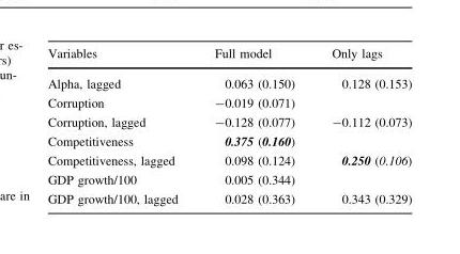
<table><thead><tr><td>Variables</td><td>Full model</td><td>Only lags</td></tr></thead><tbody><tr><td>Alpha, lagged</td><td>0.063 (0.150)</td><td>0.128 (0.153)</td></tr><tr><td>Corruption</td><td>-0.019 (0.071)</td><td></td></tr><tr><td>Corruption, lagged</td><td>-0.128 (0.077)</td><td>-0.112 (0.073)</td></tr><tr><td>Competitiveness</td><td>0.375 (0.160)</td><td></td></tr><tr><td>Competitiveness, lagged</td><td>0.098 (0.124)</td><td>0.250 (0.106)</td></tr><tr><td>GDP growth/100</td><td>0.005 (0.344)</td><td></td></tr><tr><td>GDP growth/100, lagged</td><td>0.028 (0.363)</td><td>0.343 (0.329)</td></tr></tbody></table>